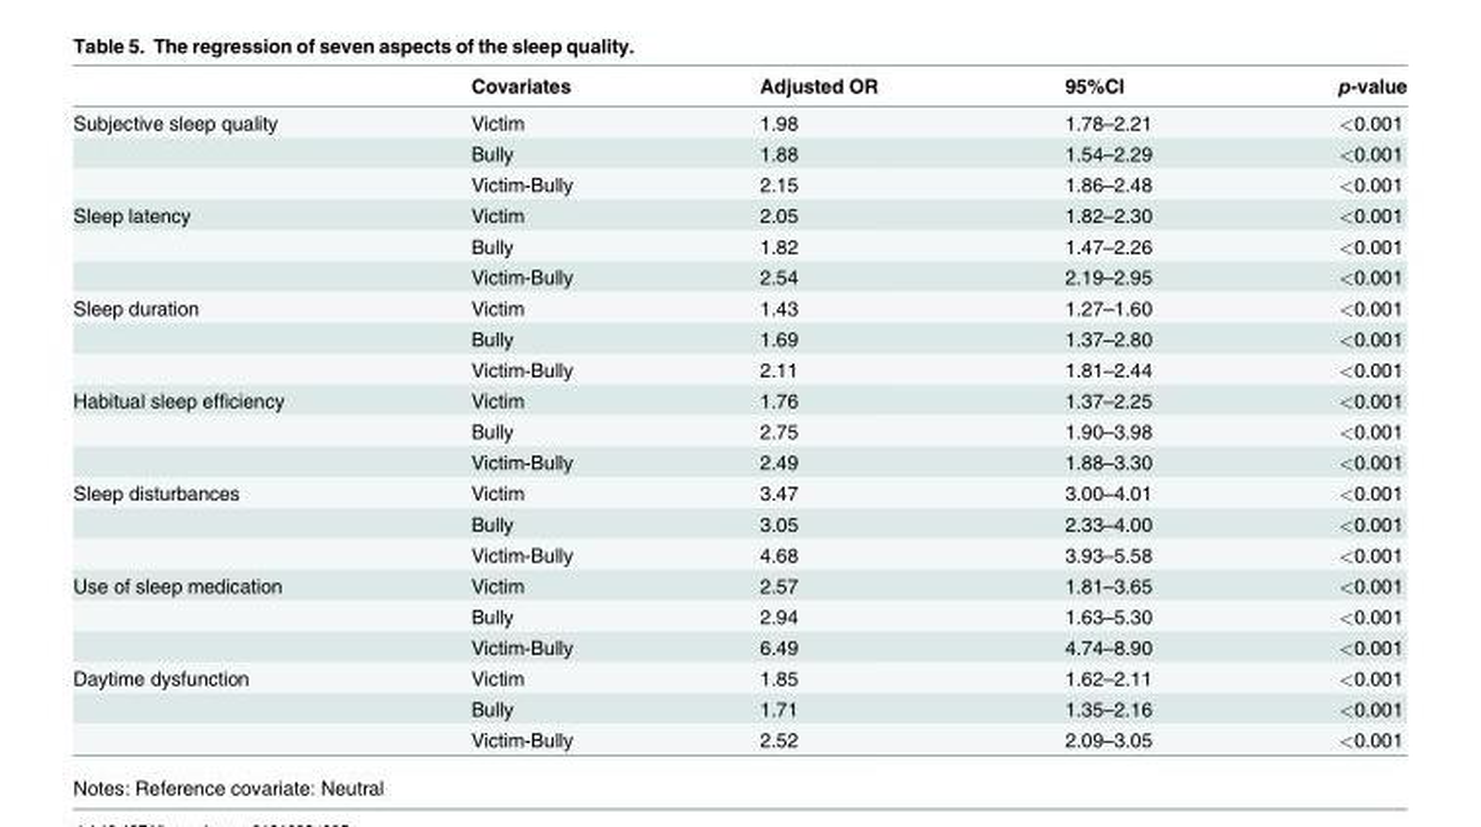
<table><thead><tr><td></td><td>Covariates</td><td>Adjusted OR</td><td>95%CI</td><td>p-value</td></tr></thead><tbody><tr><td rowspan="3">Subjective sleep quality</td><td>Victim</td><td>1.98</td><td>1.78–2.21</td><td>&lt;0.001</td></tr><tr><td>Bully</td><td>1.88</td><td>1.54–2.29</td><td>&lt;0.001</td></tr><tr><td>Victim-Bully</td><td>2.15</td><td>1.86–2.48</td><td>&lt;0.001</td></tr><tr><td rowspan="3">Sleep latency</td><td>Victim</td><td>2.05</td><td>1.82–2.30</td><td>&lt;0.001</td></tr><tr><td>Bully</td><td>1.82</td><td>1.47–2.26</td><td>&lt;0.001</td></tr><tr><td>Victim-Bully</td><td>2.54</td><td>2.19–2.95</td><td>&lt;0.001</td></tr><tr><td rowspan="3">Sleep duration</td><td>Victim</td><td>1.43</td><td>1.27–1.60</td><td>&lt;0.001</td></tr><tr><td>Bully</td><td>1.69</td><td>1.37–2.80</td><td>&lt;0.001</td></tr><tr><td>Victim-Bully</td><td>2.11</td><td>1.81–2.44</td><td>&lt;0.001</td></tr><tr><td rowspan="3">Habitual sleep efficiency</td><td>Victim</td><td>1.76</td><td>1.37–2.25</td><td>&lt;0.001</td></tr><tr><td>Bully</td><td>2.75</td><td>1.90–3.98</td><td>&lt;0.001</td></tr><tr><td>Victim-Bully</td><td>2.49</td><td>1.88–3.30</td><td>&lt;0.001</td></tr><tr><td rowspan="3">Sleep disturbances</td><td>Victim</td><td>3.47</td><td>3.00–4.01</td><td>&lt;0.001</td></tr><tr><td>Bully</td><td>3.05</td><td>2.33–4.00</td><td>&lt;0.001</td></tr><tr><td>Victim-Bully</td><td>4.68</td><td>3.93–5.58</td><td>&lt;0.001</td></tr><tr><td rowspan="3">Use of sleep medication</td><td>Victim</td><td>2.57</td><td>1.81–3.65</td><td>&lt;0.001</td></tr><tr><td>Bully</td><td>2.94</td><td>1.63–5.30</td><td>&lt;0.001</td></tr><tr><td>Victim-Bully</td><td>6.49</td><td>4.74–8.90</td><td>&lt;0.001</td></tr><tr><td rowspan="3">Daytime dysfunction</td><td>Victim</td><td>1.85</td><td>1.62–2.11</td><td>&lt;0.001</td></tr><tr><td>Bully</td><td>1.71</td><td>1.35–2.16</td><td>&lt;0.001</td></tr><tr><td>Victim-Bully</td><td>2.52</td><td>2.09–3.05</td><td>&lt;0.001</td></tr></tbody></table>